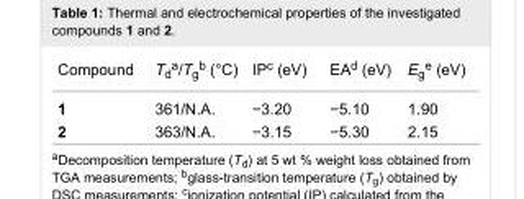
<table><tbody><tr><td>Compound</td><td>T<sub>d</sub><sup>a</sup>/T<sub>g</sub><sup>b</sup> (°C)</td><td>IP<sup>c</sup> (eV)</td><td>EA<sup>d</sup> (eV)</td><td>E<sub>g</sub><sup>e</sup> (eV)</td></tr><tr><td>1</td><td>361/N.A.</td><td>−3.20</td><td>−5.10</td><td>1.90</td></tr><tr><td>2</td><td>363/N.A.</td><td>−3.15</td><td>−5.30</td><td>2.15</td></tr></tbody></table>